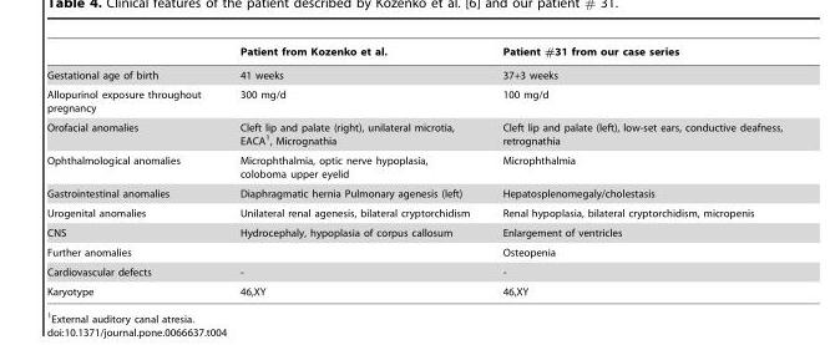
<table><thead><tr><td></td><td>Patient from Kozenko et al.</td><td>Patient #31 from our case series</td></tr></thead><tbody><tr><td>Gestational age of birth</td><td>41 weeks</td><td>37+3 weeks</td></tr><tr><td>Allopurinol exposure throughout pregnancy</td><td>300 mg/d</td><td>100 mg/d</td></tr><tr><td>Orofacial anomalies</td><td>Cleft lip and palate (right), unilateral microtia, EACA<sup>1</sup>, Micrognathia</td><td>Cleft lip and palate (left), low-set ears, conductive deafness, retrognathia</td></tr><tr><td>Ophthalmological anomalies</td><td>Microphthalmia, optic nerve hypoplasia, coloboma upper eyelid</td><td>Microphthalmia</td></tr><tr><td>Gastrointestinal anomalies</td><td>Diaphragmatic hernia Pulmonary agenesis (left)</td><td>Hepatosplenomegaly/cholestasis</td></tr><tr><td>Urogenital anomalies</td><td>Unilateral renal agenesis, bilateral cryptorchidism</td><td>Renal hypoplasia, bilateral cryptorchidism, micropenis</td></tr><tr><td>CNS</td><td>Hydrocephaly, hypoplasia of corpus callosum</td><td>Enlargement of ventricles</td></tr><tr><td>Further anomalies</td><td></td><td>Osteopenia</td></tr><tr><td>Cardiovascular defects</td><td>-</td><td>-</td></tr><tr><td>Karyotype</td><td>46,XY</td><td>46,XY</td></tr></tbody></table>